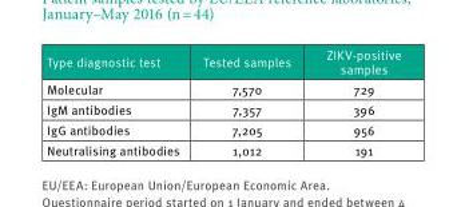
<table><thead><tr><td>Type diagnostic test</td><td>Tested samples</td><td>ZIKV-positive samples</td></tr></thead><tbody><tr><td>Molecular</td><td>7,570</td><td>729</td></tr><tr><td>IgM antibodies</td><td>7,357</td><td>396</td></tr><tr><td>IgG antibodies</td><td>7,205</td><td>956</td></tr><tr><td>Neutralising antibodies</td><td>1,012</td><td>191</td></tr></tbody></table>